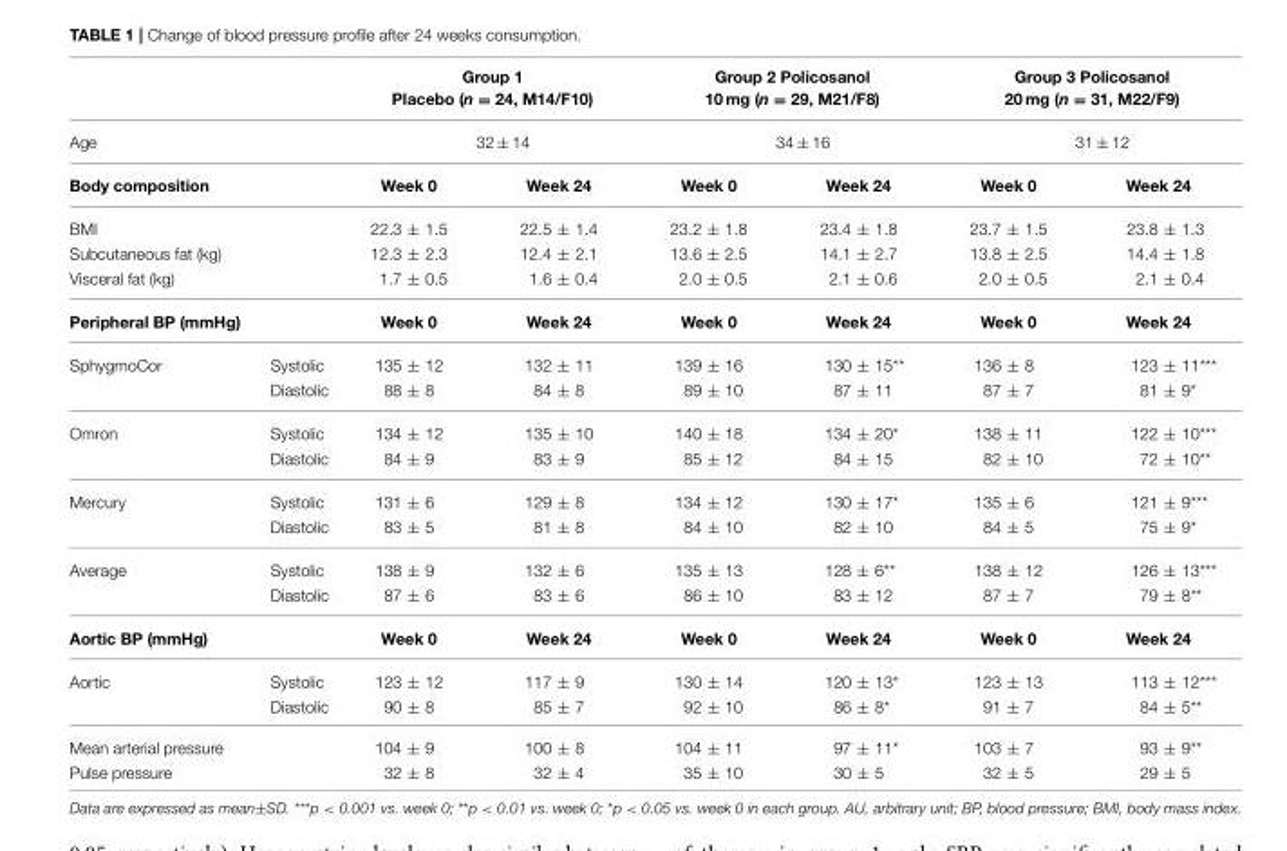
<table><thead><tr><td rowspan="3">Age Body composition</td><td rowspan="3"></td><td rowspan="2" colspan="2">Group 1 Placebo (n = 24, M14/F10) 32 ± 14</td><td rowspan="2" colspan="2">Group 2 Policosanol 10 mg (n = 29, M21/F8) 34 ± 16</td><td rowspan="2" colspan="2">Group 3 Policosanol 20 mg (n = 31, M22/F9) 31 ± 12</td></tr><tr></tr><tr><td>Week 0</td><td>Week 24</td><td>Week 0</td><td>Week 24</td><td>Week 0</td><td>Week 24</td></tr></thead><tbody><tr><td>BMI</td><td></td><td>22.3 ± 1.5</td><td>22.5 ± 1.4</td><td>23.2 ± 1.8</td><td>23.4 ± 1.8</td><td>23.7 ± 1.5</td><td>23.8 ± 1.3</td></tr><tr><td>Subcutaneous fat (kg)</td><td></td><td>12.3 ± 2.3</td><td>12.4 ± 2.1</td><td>13.6 ± 2.5</td><td>14.1 ± 2.7</td><td>13.8 ± 2.5</td><td>14.4 ± 1.8</td></tr><tr><td>Visceral fat (kg)</td><td></td><td>1.7 ± 0.5</td><td>1.6 ± 0.4</td><td>2.0 ± 0.5</td><td>2.1 ± 0.6</td><td>2.0 ± 0.5</td><td>2.1 ± 0.4</td></tr><tr><td colspan="2">Peripheral BP (mmHg)</td><td>Week 0</td><td>Week 24</td><td>Week 0</td><td>Week 24</td><td>Week 0</td><td>Week 24</td></tr><tr><td rowspan="2">SphygmoCor</td><td>Systolic</td><td>135 ± 12</td><td>132 ± 11</td><td>139 ± 16</td><td>130 ± 15**</td><td>136 ± 8</td><td>123 ± 11***</td></tr><tr><td>Diastolic</td><td>88 ± 8</td><td>84 ± 8</td><td>89 ± 10</td><td>87 ± 11</td><td>87 ± 7</td><td>81 ± 9*</td></tr><tr><td rowspan="2">Omron</td><td>Systolic</td><td>134 ± 12</td><td>135 ± 10</td><td>140 ± 18</td><td>134 ± 20*</td><td>138 ± 11</td><td>122 ± 10***</td></tr><tr><td>Diastolic</td><td>84 ± 9</td><td>83 ± 9</td><td>85 ± 12</td><td>84 ± 15</td><td>82 ± 10</td><td>72 ± 10**</td></tr><tr><td rowspan="2">Mercury</td><td>Systolic</td><td>131 ± 6</td><td>129 ± 8</td><td>134 ± 12</td><td>130 ± 17*</td><td>135 ± 6</td><td>121 ± 9***</td></tr><tr><td>Diastolic</td><td>83 ± 5</td><td>81 ± 8</td><td>84 ± 10</td><td>82 ± 10</td><td>84 ± 5</td><td>75 ± 9*</td></tr><tr><td rowspan="2">Average</td><td>Systolic</td><td>138 ± 9</td><td>132 ± 6</td><td>135 ± 13</td><td>128 ± 6**</td><td>138 ± 12</td><td>126 ± 13***</td></tr><tr><td>Diastolic</td><td>87 ± 6</td><td>83 ± 6</td><td>86 ± 10</td><td>83 ± 12</td><td>87 ± 7</td><td>79 ± 8**</td></tr><tr><td colspan="2">Aortic BP (mmHg)</td><td>Week 0</td><td>Week 24</td><td>Week 0</td><td>Week 24</td><td>Week 0</td><td>Week 24</td></tr><tr><td rowspan="2">Aortic</td><td>Systolic</td><td>123 ± 12</td><td>117 ± 9</td><td>130 ± 14</td><td>120 ± 13*</td><td>123 ± 13</td><td>113 ± 12***</td></tr><tr><td>Diastolic</td><td>90 ± 8</td><td>85 ± 7</td><td>92 ± 10</td><td>86 ± 8*</td><td>91 ± 7</td><td>84 ± 5**</td></tr><tr><td colspan="2">Mean arterial pressure</td><td>104 ± 9</td><td>100 ± 8</td><td>104 ± 11</td><td>97 ± 11*</td><td>103 ± 7</td><td>93 ± 9**</td></tr><tr><td colspan="2">Pulse pressure</td><td>32 ± 8</td><td>32 ± 4</td><td>35 ± 10</td><td>30 ± 5</td><td>32 ± 5</td><td>29 ± 5</td></tr></tbody></table>